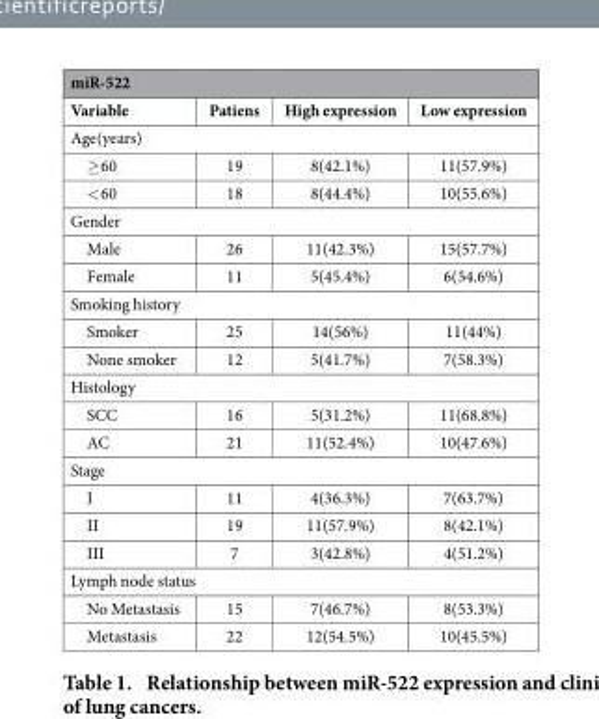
<table><thead><tr><td colspan="4">miR-522</td></tr><tr><td>Variable</td><td>Patiens</td><td>High expression</td><td>Low expression</td></tr></thead><tbody><tr><td colspan="4">Age(years)</td></tr><tr><td>≥ 60</td><td>19</td><td>8(42.1%)</td><td>11(57.9%)</td></tr><tr><td>&lt; 60</td><td>18</td><td>8(44.4%)</td><td>10(55.6%)</td></tr><tr><td colspan="4">Gender</td></tr><tr><td>Male</td><td>26</td><td>11(42.3%)</td><td>15(57.7%)</td></tr><tr><td>Female</td><td>11</td><td>5(45.4%)</td><td>6(54.6%)</td></tr><tr><td colspan="4">Smoking history</td></tr><tr><td>Smoker</td><td>25</td><td>14(56%)</td><td>11(44%)</td></tr><tr><td>None smoker</td><td>12</td><td>5(41.7%)</td><td>7(58.3%)</td></tr><tr><td colspan="4">Histology</td></tr><tr><td>SCC</td><td>16</td><td>5(31.2%)</td><td>11(68.8%)</td></tr><tr><td>AC</td><td>21</td><td>11(52.4%)</td><td>10(47.6%)</td></tr><tr><td colspan="4">Stage</td></tr><tr><td>I</td><td>11</td><td>4(36.3%)</td><td>7(63.7%)</td></tr><tr><td>II</td><td>19</td><td>11(57.9%)</td><td>8(42.1%)</td></tr><tr><td>III</td><td>7</td><td>3(42.8%)</td><td>4(51.2%)</td></tr><tr><td colspan="4">Lymph node status</td></tr><tr><td>No Metastasis</td><td>15</td><td>7(46.7%)</td><td>8(53.3%)</td></tr><tr><td>Metastasis</td><td>22</td><td>12(54.5%)</td><td>10(45.5%)</td></tr></tbody></table>